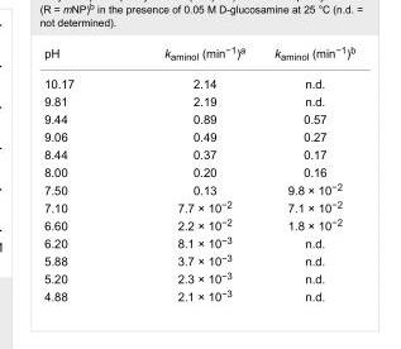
<table><tbody><tr><td>pH</td><td>k<sub>aminol</sub> (min<sup>−1</sup>)<sup>a</sup></td><td>k<sub>aminol</sub> (min<sup>−1</sup>)<sup>b</sup></td></tr><tr><td>10.17</td><td>2.14</td><td>n.d.</td></tr><tr><td>9.81</td><td>2.19</td><td>n.d.</td></tr><tr><td>9.44</td><td>0.89</td><td>0.57</td></tr><tr><td>9.06</td><td>0.49</td><td>0.27</td></tr><tr><td>8.44</td><td>0.37</td><td>0.17</td></tr><tr><td>8.00</td><td>0.20</td><td>0.16</td></tr><tr><td>7.50</td><td>0.13</td><td>9.8 × 10<sup>−2</sup></td></tr><tr><td>7.10</td><td>7.7 × 10<sup>−2</sup></td><td>7.1 × 10<sup>−2</sup></td></tr><tr><td>6.60</td><td>2.2 × 10<sup>−2</sup></td><td>1.8 × 10<sup>−2</sup></td></tr><tr><td>6.20</td><td>8.1 × 10<sup>−3</sup></td><td>n.d.</td></tr><tr><td>5.88</td><td>3.7 × 10<sup>−3</sup></td><td>n.d.</td></tr><tr><td>5.20</td><td>2.3 × 10<sup>−3</sup></td><td>n.d.</td></tr><tr><td>4.88</td><td>2.1 × 10<sup>−3</sup></td><td>n.d.</td></tr></tbody></table>